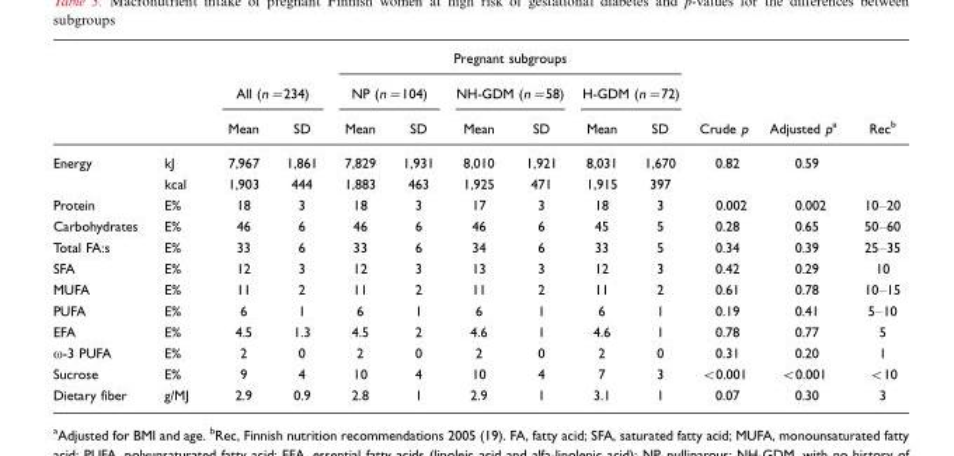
<table><thead><tr><td rowspan="3"></td><td rowspan="3"></td><td></td><td></td><td colspan="6">Pregnant subgroups</td><td rowspan="3">Crude p</td><td rowspan="3">Adjusted pa</td><td rowspan="3">Rec<sup>b</sup></td></tr><tr><td colspan="2">All (n=234)</td><td colspan="2">NP (n=104)</td><td colspan="2">NH-GDM (n=58)</td><td colspan="2">H-GDM (n=72)</td></tr><tr><td>Mean</td><td>SD</td><td>Mean</td><td>SD</td><td>Mean</td><td>SD</td><td>Mean</td><td>SD</td></tr></thead><tbody><tr><td rowspan="2">Energy</td><td>kJ</td><td>7,967</td><td>1,861</td><td>7,829</td><td>1,931</td><td>8,010</td><td>1,921</td><td>8,031</td><td>1,670</td><td>0.82</td><td>0.59</td><td></td></tr><tr><td>kcal</td><td>1,903</td><td>444</td><td>1,883</td><td>463</td><td>1,925</td><td>471</td><td>1,915</td><td>397</td><td></td><td></td><td></td></tr><tr><td>Protein</td><td>E%</td><td>18</td><td>3</td><td>18</td><td>3</td><td>17</td><td>3</td><td>18</td><td>3</td><td>0.002</td><td>0.002</td><td>10–20</td></tr><tr><td>Carbohydrates</td><td>E%</td><td>46</td><td>6</td><td>46</td><td>6</td><td>46</td><td>6</td><td>45</td><td>5</td><td>0.28</td><td>0.65</td><td>50–60</td></tr><tr><td>Total FA:s</td><td>E%</td><td>33</td><td>6</td><td>33</td><td>6</td><td>34</td><td>6</td><td>33</td><td>5</td><td>0.34</td><td>0.39</td><td>25–35</td></tr><tr><td>SFA</td><td>E%</td><td>12</td><td>3</td><td>12</td><td>3</td><td>13</td><td>3</td><td>12</td><td>3</td><td>0.42</td><td>0.29</td><td>10</td></tr><tr><td>MUFA</td><td>E%</td><td>11</td><td>2</td><td>11</td><td>2</td><td>11</td><td>2</td><td>11</td><td>2</td><td>0.61</td><td>0.78</td><td>10–15</td></tr><tr><td>PUFA</td><td>E%</td><td>6</td><td>1</td><td>6</td><td>1</td><td>6</td><td>1</td><td>6</td><td>1</td><td>0.19</td><td>0.41</td><td>5–10</td></tr><tr><td>EFA</td><td>E%</td><td>4.5</td><td>1.3</td><td>4.5</td><td>2</td><td>4.6</td><td>1</td><td>4.6</td><td>1</td><td>0.78</td><td>0.77</td><td>5</td></tr><tr><td>ω-3 PUFA</td><td>E%</td><td>2</td><td>0</td><td>2</td><td>0</td><td>2</td><td>0</td><td>2</td><td>0</td><td>0.31</td><td>0.20</td><td>1</td></tr><tr><td>Sucrose</td><td>E%</td><td>9</td><td>4</td><td>10</td><td>4</td><td>10</td><td>4</td><td>7</td><td>3</td><td>&lt;0.001</td><td>&lt;0.001</td><td>&lt;10</td></tr><tr><td>Dietary fiber</td><td>g/MJ</td><td>2.9</td><td>0.9</td><td>2.8</td><td>1</td><td>2.9</td><td>1</td><td>3.1</td><td>1</td><td>0.07</td><td>0.30</td><td>3</td></tr></tbody></table>